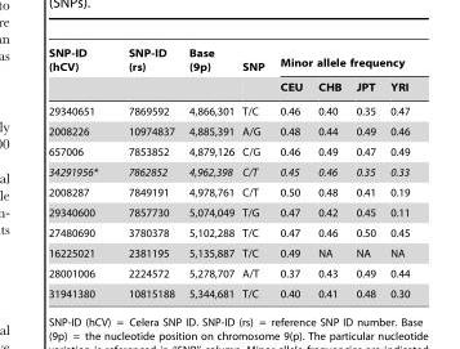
<table><thead><tr><td rowspan="2">SNP-ID (hCV)</td><td rowspan="2">SNP-ID (rs)</td><td rowspan="2">Base (9p)</td><td rowspan="2">SNP</td><td colspan="4">Minor allele frequency</td></tr><tr><td>CEU</td><td>CHB</td><td>JPT</td><td>YRI</td></tr></thead><tbody><tr><td>29340651</td><td>7869592</td><td>4,866,301</td><td>T/C</td><td>0.46</td><td>0.40</td><td>0.35</td><td>0.47</td></tr><tr><td>2008226</td><td>10974837</td><td>4,885,391</td><td>A/G</td><td>0.48</td><td>0.44</td><td>0.49</td><td>0.46</td></tr><tr><td>657006</td><td>7853852</td><td>4,879,126</td><td>C/G</td><td>0.46</td><td>0.49</td><td>0.47</td><td>0.49</td></tr><tr><td>34291956*</td><td>7862852</td><td>4,962,398</td><td>C/T</td><td>0.45</td><td>0.46</td><td>0.35</td><td>0.33</td></tr><tr><td>2008287</td><td>7849191</td><td>4,978,761</td><td>C/T</td><td>0.50</td><td>0.48</td><td>0.41</td><td>0.19</td></tr><tr><td>29340600</td><td>7857730</td><td>5,074,049</td><td>T/G</td><td>0.47</td><td>0.42</td><td>0.45</td><td>0.11</td></tr><tr><td>27480690</td><td>3780378</td><td>5,102,288</td><td>T/C</td><td>0.47</td><td>0.46</td><td>0.50</td><td>0.45</td></tr><tr><td>16225021</td><td>2381195</td><td>5,135,887</td><td>T/C</td><td>0.49</td><td>NA</td><td>NA</td><td>NA</td></tr><tr><td>28001006</td><td>2224572</td><td>5,278,707</td><td>A/T</td><td>0.37</td><td>0.43</td><td>0.49</td><td>0.44</td></tr><tr><td>31941380</td><td>10815188</td><td>5,344,681</td><td>T/C</td><td>0.40</td><td>0.41</td><td>0.48</td><td>0.30</td></tr></tbody></table>